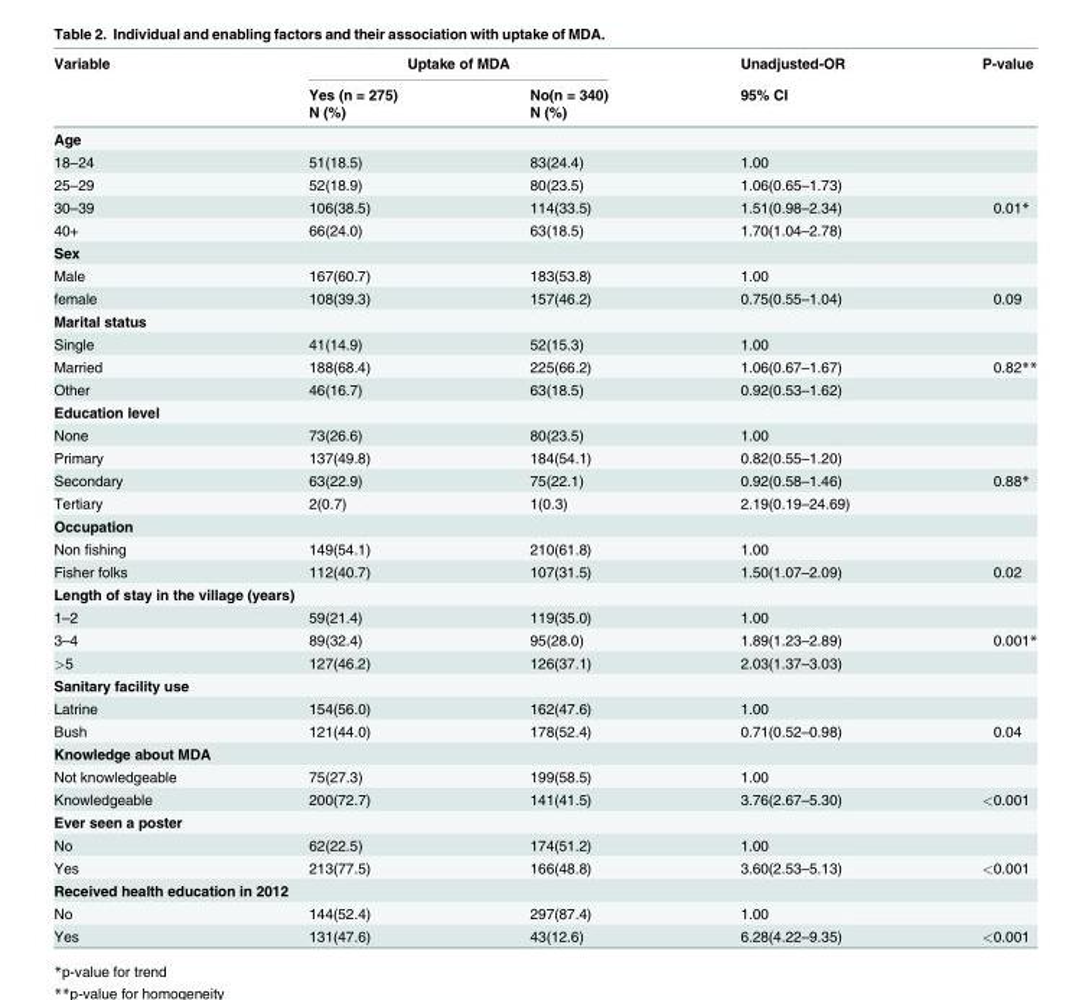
<table><thead><tr><td rowspan="3">Variable</td><td colspan="2">Uptake of MDA</td><td rowspan="3">Unadjusted-OR 95% CI</td><td rowspan="3">P-value</td></tr><tr><td rowspan="2">Yes (n = 275) N (%)</td><td rowspan="2">No(n = 340) N (%)</td></tr><tr></tr></thead><tbody><tr><td colspan="5">Age</td></tr><tr><td>18–24</td><td>51(18.5)</td><td>83(24.4)</td><td>1.00</td><td></td></tr><tr><td>25–29</td><td>52(18.9)</td><td>80(23.5)</td><td>1.06(0.65–1.73)</td><td></td></tr><tr><td>30–39</td><td>106(38.5)</td><td>114(33.5)</td><td>1.51(0.98–2.34)</td><td>0.01*</td></tr><tr><td>40+</td><td>66(24.0)</td><td>63(18.5)</td><td>1.70(1.04–2.78)</td><td></td></tr><tr><td colspan="5">Sex</td></tr><tr><td>Male</td><td>167(60.7)</td><td>183(53.8)</td><td>1.00</td><td></td></tr><tr><td>female</td><td>108(39.3)</td><td>157(46.2)</td><td>0.75(0.55–1.04)</td><td>0.09</td></tr><tr><td colspan="5">Marital status</td></tr><tr><td>Single</td><td>41(14.9)</td><td>52(15.3)</td><td>1.00</td><td></td></tr><tr><td>Married</td><td>188(68.4)</td><td>225(66.2)</td><td>1.06(0.67–1.67)</td><td>0.82**</td></tr><tr><td>Other</td><td>46(16.7)</td><td>63(18.5)</td><td>0.92(0.53–1.62)</td><td></td></tr><tr><td colspan="5">Education level</td></tr><tr><td>None</td><td>73(26.6)</td><td>80(23.5)</td><td>1.00</td><td></td></tr><tr><td>Primary</td><td>137(49.8)</td><td>184(54.1)</td><td>0.82(0.55–1.20)</td><td></td></tr><tr><td>Secondary</td><td>63(22.9)</td><td>75(22.1)</td><td>0.92(0.58–1.46)</td><td>0.88*</td></tr><tr><td>Tertiary</td><td>2(0.7)</td><td>1(0.3)</td><td>2.19(0.19–24.69)</td><td></td></tr><tr><td colspan="5">Occupation</td></tr><tr><td>Non fishing</td><td>149(54.1)</td><td>210(61.8)</td><td>1.00</td><td></td></tr><tr><td>Fisher folks</td><td>112(40.7)</td><td>107(31.5)</td><td>1.50(1.07–2.09)</td><td>0.02</td></tr><tr><td colspan="5">Length of stay in the village (years)</td></tr><tr><td>1–2</td><td>59(21.4)</td><td>119(35.0)</td><td>1.00</td><td></td></tr><tr><td>3–4</td><td>89(32.4)</td><td>95(28.0)</td><td>1.89(1.23–2.89)</td><td>0.001*</td></tr><tr><td>&gt;5</td><td>127(46.2)</td><td>126(37.1)</td><td>2.03(1.37–3.03)</td><td></td></tr><tr><td colspan="5">Sanitary facility use</td></tr><tr><td>Latrine</td><td>154(56.0)</td><td>162(47.6)</td><td>1.00</td><td></td></tr><tr><td>Bush</td><td>121(44.0)</td><td>178(52.4)</td><td>0.71(0.52–0.98)</td><td>0.04</td></tr><tr><td colspan="5">Knowledge about MDA</td></tr><tr><td>Not knowledgeable</td><td>75(27.3)</td><td>199(58.5)</td><td>1.00</td><td></td></tr><tr><td>Knowledgeable</td><td>200(72.7)</td><td>141(41.5)</td><td>3.76(2.67–5.30)</td><td>&lt;0.001</td></tr><tr><td colspan="5">Ever seen a poster</td></tr><tr><td>No</td><td>62(22.5)</td><td>174(51.2)</td><td>1.00</td><td></td></tr><tr><td>Yes</td><td>213(77.5)</td><td>166(48.8)</td><td>3.60(2.53–5.13)</td><td>&lt;0.001</td></tr><tr><td colspan="5">Received health education in 2012</td></tr><tr><td>No</td><td>144(52.4)</td><td>297(87.4)</td><td>1.00</td><td></td></tr><tr><td>Yes</td><td>131(47.6)</td><td>43(12.6)</td><td>6.28(4.22–9.35)</td><td>&lt;0.001</td></tr></tbody></table>